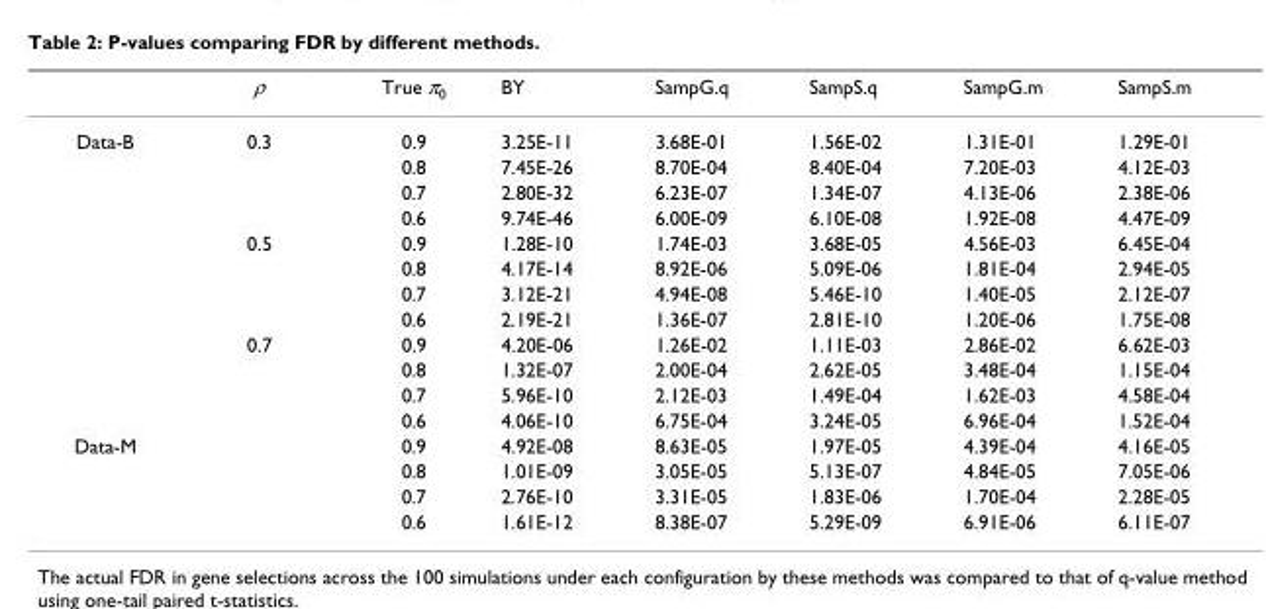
<table><thead><tr><td></td><td>ρ</td><td>True π<sub>0</sub></td><td>BY</td><td>SampG.q</td><td>SampS.q</td><td>SampG.m</td><td>SampS.m</td></tr></thead><tbody><tr><td rowspan="12">Data-B</td><td>0.3</td><td>0.9</td><td>3.25E-11</td><td>3.68E-01</td><td>1.56E-02</td><td>1.31E-01</td><td>1.29E-01</td></tr><tr><td></td><td>0.8</td><td>7.45E-26</td><td>8.70E-04</td><td>8.40E-04</td><td>7.20E-03</td><td>4.12E-03</td></tr><tr><td></td><td>0.7</td><td>2.80E-32</td><td>6.23E-07</td><td>1.34E-07</td><td>4.13E-06</td><td>2.38E-06</td></tr><tr><td></td><td>0.6</td><td>9.74E-46</td><td>6.00E-09</td><td>6.10E-08</td><td>1.92E-08</td><td>4.47E-09</td></tr><tr><td>0.5</td><td>0.9</td><td>1.28E-10</td><td>1.74E-03</td><td>3.68E-05</td><td>4.56E-03</td><td>6.45E-04</td></tr><tr><td></td><td>0.8</td><td>4.17E-14</td><td>8.92E-06</td><td>5.09E-06</td><td>1.81E-04</td><td>2.94E-05</td></tr><tr><td></td><td>0.7</td><td>3.12E-21</td><td>4.94E-08</td><td>5.46E-10</td><td>1.40E-05</td><td>2.12E-07</td></tr><tr><td></td><td>0.6</td><td>2.19E-21</td><td>1.36E-07</td><td>2.81E-10</td><td>1.20E-06</td><td>1.75E-08</td></tr><tr><td>0.7</td><td>0.9</td><td>4.20E-06</td><td>1.26E-02</td><td>1.11E-03</td><td>2.86E-02</td><td>6.62E-03</td></tr><tr><td></td><td>0.8</td><td>1.32E-07</td><td>2.00E-04</td><td>2.62E-05</td><td>3.48E-04</td><td>1.15E-04</td></tr><tr><td></td><td>0.7</td><td>5.96E-10</td><td>2.12E-03</td><td>1.49E-04</td><td>1.62E-03</td><td>4.58E-04</td></tr><tr><td></td><td>0.6</td><td>4.06E-10</td><td>6.75E-04</td><td>3.24E-05</td><td>6.96E-04</td><td>1.52E-04</td></tr><tr><td rowspan="4">Data-M</td><td></td><td>0.9</td><td>4.92E-08</td><td>8.63E-05</td><td>1.97E-05</td><td>4.39E-04</td><td>4.16E-05</td></tr><tr><td></td><td>0.8</td><td>1.01E-09</td><td>3.05E-05</td><td>5.13E-07</td><td>4.84E-05</td><td>7.05E-06</td></tr><tr><td></td><td>0.7</td><td>2.76E-10</td><td>3.31E-05</td><td>1.83E-06</td><td>1.70E-04</td><td>2.28E-05</td></tr><tr><td></td><td>0.6</td><td>1.61E-12</td><td>8.38E-07</td><td>5.29E-09</td><td>6.91E-06</td><td>6.11E-07</td></tr></tbody></table>